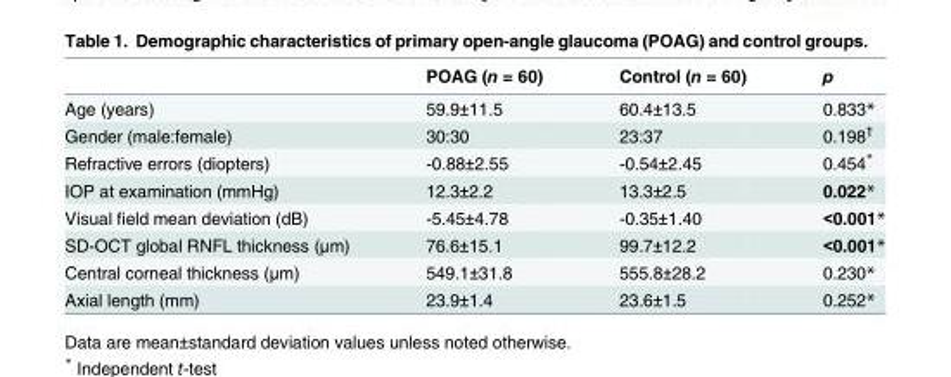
<table><thead><tr><td></td><td>POAG (n = 60)</td><td>Control (n = 60)</td><td>p</td></tr></thead><tbody><tr><td>Age (years)</td><td>59.9±11.5</td><td>60.4±13.5</td><td>0.833*</td></tr><tr><td>Gender (male:female)</td><td>30:30</td><td>23:37</td><td>0.198<sup>†</sup></td></tr><tr><td>Refractive errors (diopters)</td><td>-0.88±2.55</td><td>-0.54±2.45</td><td>0.454*</td></tr><tr><td>IOP at examination (mmHg)</td><td>12.3±2.2</td><td>13.3±2.5</td><td>0.022*</td></tr><tr><td>Visual field mean deviation (dB)</td><td>-5.45±4.78</td><td>-0.35±1.40</td><td>&lt;0.001*</td></tr><tr><td>SD-OCT global RNFL thickness (μm)</td><td>76.6±15.1</td><td>99.7±12.2</td><td>&lt;0.001*</td></tr><tr><td>Central corneal thickness (μm)</td><td>549.1±31.8</td><td>555.8±28.2</td><td>0.230*</td></tr><tr><td>Axial length (mm)</td><td>23.9±1.4</td><td>23.6±1.5</td><td>0.252*</td></tr></tbody></table>